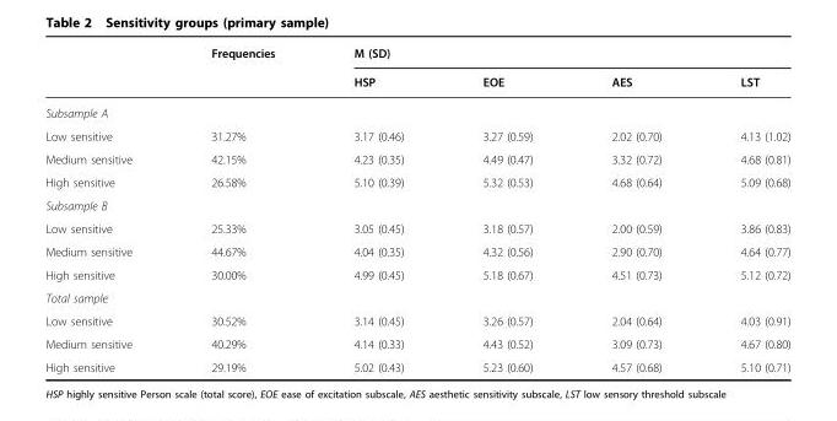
<table><thead><tr><td rowspan="2"></td><td rowspan="2">Frequencies</td><td colspan="4">M (SD)</td></tr><tr><td>HSP</td><td>EOE</td><td>AES</td><td>LST</td></tr></thead><tbody><tr><td colspan="6">Subsample A</td></tr><tr><td>Low sensitive</td><td>31.27%</td><td>3.17 (0.46)</td><td>3.27 (0.59)</td><td>2.02 (0.70)</td><td>4.13 (1.02)</td></tr><tr><td>Medium sensitive</td><td>42.15%</td><td>4.23 (0.35)</td><td>4.49 (0.47)</td><td>3.32 (0.72)</td><td>4.68 (0.81)</td></tr><tr><td>High sensitive</td><td>26.58%</td><td>5.10 (0.39)</td><td>5.32 (0.53)</td><td>4.68 (0.64)</td><td>5.09 (0.68)</td></tr><tr><td colspan="6">Subsample B</td></tr><tr><td>Low sensitive</td><td>25.33%</td><td>3.05 (0.45)</td><td>3.18 (0.57)</td><td>2.00 (0.59)</td><td>3.86 (0.83)</td></tr><tr><td>Medium sensitive</td><td>44.67%</td><td>4.04 (0.35)</td><td>4.32 (0.56)</td><td>2.90 (0.70)</td><td>4.64 (0.77)</td></tr><tr><td>High sensitive</td><td>30.00%</td><td>4.99 (0.45)</td><td>5.18 (0.67)</td><td>4.51 (0.73)</td><td>5.12 (0.72)</td></tr><tr><td colspan="6">Total sample</td></tr><tr><td>Low sensitive</td><td>30.52%</td><td>3.14 (0.45)</td><td>3.26 (0.57)</td><td>2.04 (0.64)</td><td>4.03 (0.91)</td></tr><tr><td>Medium sensitive</td><td>40.29%</td><td>4.14 (0.33)</td><td>4.43 (0.52)</td><td>3.09 (0.73)</td><td>4.67 (0.80)</td></tr><tr><td>High sensitive</td><td>29.19%</td><td>5.02 (0.43)</td><td>5.23 (0.60)</td><td>4.57 (0.68)</td><td>5.10 (0.71)</td></tr></tbody></table>